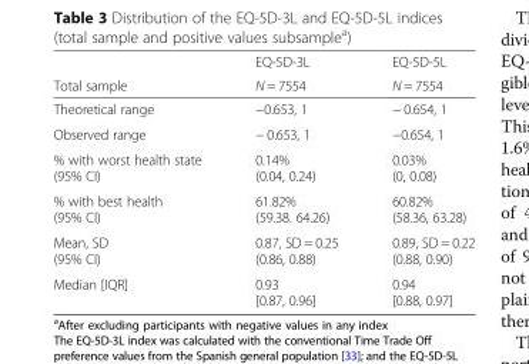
<table><thead><tr><td rowspan="2">Total sample</td><td rowspan="2">EQ-5D-3L N = 7554</td><td rowspan="2">EQ-5D-5L N = 7554</td></tr><tr></tr></thead><tbody><tr><td>Theoretical range</td><td>−0.653, 1</td><td>− 0.654, 1</td></tr><tr><td>Observed range</td><td>− 0.653, 1</td><td>−0.654, 1</td></tr><tr><td>% with worst health state (95% CI)</td><td>0.14% (0.04, 0.24)</td><td>0.03% (0, 0.08)</td></tr><tr><td>% with best health (95% CI)</td><td>61.82% (59.38. 64.26)</td><td>60.82% (58.36, 63.28)</td></tr><tr><td>Mean, SD (95% CI)</td><td>0.87, SD = 0.25 (0.86, 0.88)</td><td>0.89, SD = 0.22 (0.88, 0.90)</td></tr><tr><td>Median [IQR]</td><td>0.93 [0.87, 0.96]</td><td>0.94 [0.88, 0.97]</td></tr></tbody></table>